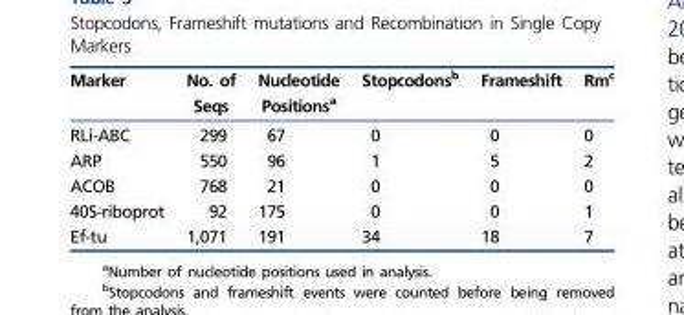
<table><thead><tr><td>Marker</td><td>No. of Seqs</td><td>Nucleotide Positions<sup>a</sup></td><td>Stopcodons<sup>b</sup></td><td>Frameshift</td><td>Rm<sup>c</sup></td></tr></thead><tbody><tr><td>RLi-ABC</td><td>299</td><td>67</td><td>0</td><td>0</td><td>0</td></tr><tr><td>ARP</td><td>550</td><td>96</td><td>1</td><td>5</td><td>2</td></tr><tr><td>ACOB</td><td>768</td><td>21</td><td>0</td><td>0</td><td>0</td></tr><tr><td>40S-riboprot</td><td>92</td><td>175</td><td>0</td><td>0</td><td>1</td></tr><tr><td>Ef-tu</td><td>1,071</td><td>191</td><td>34</td><td>18</td><td>7</td></tr></tbody></table>